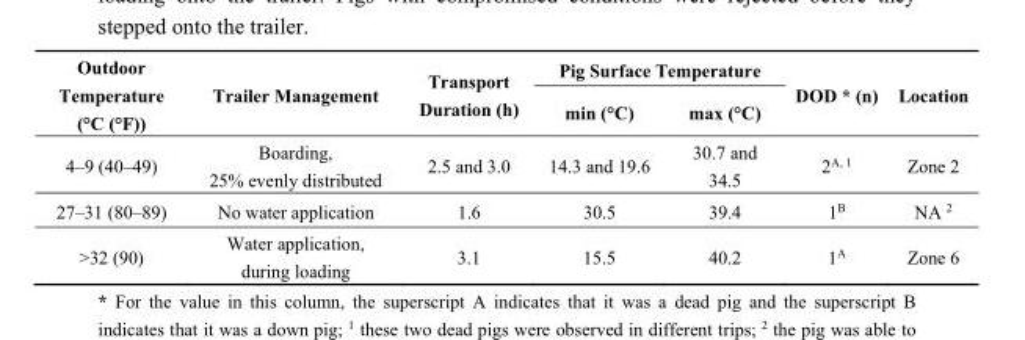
<table><thead><tr><td rowspan="2">Outdoor Temperature (°C (°F))</td><td rowspan="2">Trailer Management</td><td rowspan="2">Transport Duration (h)</td><td colspan="2">Pig Surface Temperature</td><td rowspan="2">DOD * (n)</td><td rowspan="2">Location</td></tr><tr><td>min (°C)</td><td>max (°C)</td></tr></thead><tbody><tr><td>4–9 (40–49)</td><td>Boarding, 25% evenly distributed</td><td>2.5 and 3.0</td><td>14.3 and 19.6</td><td>30.7 and 34.5</td><td>2<sup>A, 1</sup></td><td>Zone 2</td></tr><tr><td>27–31 (80–89)</td><td>No water application</td><td>1.6</td><td>30.5</td><td>39.4</td><td>1<sup>B</sup></td><td>NA <sup>2</sup></td></tr><tr><td>&gt;32 (90)</td><td>Water application, during loading</td><td>3.1</td><td>15.5</td><td>40.2</td><td>1<sup>A</sup></td><td>Zone 6</td></tr></tbody></table>